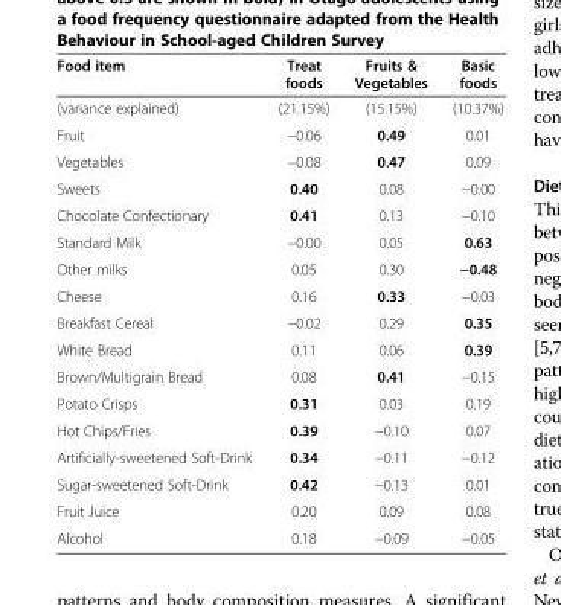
<table><thead><tr><td>Food item</td><td>Treat foods</td><td>Fruits &amp; Vegetables</td><td>Basic foods</td></tr></thead><tbody><tr><td>(variance explained)</td><td>(21.15%)</td><td>(15.15%)</td><td>(10.37%)</td></tr><tr><td>Fruit</td><td>−0.06</td><td>0.49</td><td>0.01</td></tr><tr><td>Vegetables</td><td>−0.08</td><td>0.47</td><td>0.09</td></tr><tr><td>Sweets</td><td>0.40</td><td>0.08</td><td>−0.00</td></tr><tr><td>Chocolate Confectionary</td><td>0.41</td><td>0.13</td><td>−0.10</td></tr><tr><td>Standard Milk</td><td>−0.00</td><td>0.05</td><td>0.63</td></tr><tr><td>Other milks</td><td>0.05</td><td>0.30</td><td>−0.48</td></tr><tr><td>Cheese</td><td>0.16</td><td>0.33</td><td>−0.03</td></tr><tr><td>Breakfast Cereal</td><td>−0.02</td><td>0.29</td><td>0.35</td></tr><tr><td>White Bread</td><td>0.11</td><td>0.06</td><td>0.39</td></tr><tr><td>Brown/Multigrain Bread</td><td>0.08</td><td>0.41</td><td>−0.15</td></tr><tr><td>Potato Crisps</td><td>0.31</td><td>0.03</td><td>0.19</td></tr><tr><td>Hot Chips/Fries</td><td>0.39</td><td>−0.10</td><td>0.07</td></tr><tr><td>Artificially-sweetened Soft-Drink</td><td>0.34</td><td>−0.11</td><td>−0.12</td></tr><tr><td>Sugar-sweetened Soft-Drink</td><td>0.42</td><td>−0.13</td><td>0.01</td></tr><tr><td>Fruit Juice</td><td>0.20</td><td>0.09</td><td>0.08</td></tr><tr><td>Alcohol</td><td>0.18</td><td>−0.09</td><td>−0.05</td></tr></tbody></table>